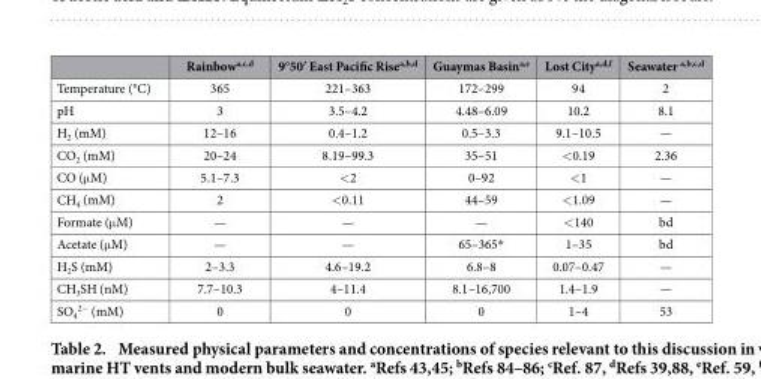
<table><thead><tr><td></td><td>Rainbow<sup>a,c,d</sup></td><td>9°50′ East Pacific Rise<sup>a,b,d</sup></td><td>Guaymas Basin<sup>a,e</sup></td><td>Lost City<sup>a,d,f</sup></td><td>Seawater <sup>a,b,c,d</sup></td></tr></thead><tbody><tr><td>Temperature (°C)</td><td>365</td><td>221–363</td><td>172–299</td><td>94</td><td>2</td></tr><tr><td>pH</td><td>3</td><td>3.5–4.2</td><td>4.48–6.09</td><td>10.2</td><td>8.1</td></tr><tr><td>H<sub>2</sub> (mM)</td><td>12–16</td><td>0.4–1.2</td><td>0.5–3.3</td><td>9.1–10.5</td><td>—</td></tr><tr><td>CO<sub>2</sub> (mM)</td><td>20–24</td><td>8.19–99.3</td><td>35–51</td><td>&lt; 0.19</td><td>2.36</td></tr><tr><td>CO (μ M)</td><td>5.1–7.3</td><td>&lt; 2</td><td>0–92</td><td>&lt; 1</td><td>—</td></tr><tr><td>CH<sub>4</sub> (mM)</td><td>2</td><td>&lt; 0.11</td><td>44–59</td><td>&lt; 1.09</td><td>—</td></tr><tr><td>Formate (μ M)</td><td>—</td><td>—</td><td>—</td><td>&lt; 140</td><td>bd</td></tr><tr><td>Acetate (μ M)</td><td>—</td><td>—</td><td>65–365*</td><td>1–35</td><td>bd</td></tr><tr><td>H<sub>2</sub>S (mM)</td><td>2–3.3</td><td>4.6–19.2</td><td>6.8–8</td><td>0.07–0.47</td><td>—</td></tr><tr><td>CH<sub>3</sub>SH (nM)</td><td>7.7–10.3</td><td>4–11.4</td><td>8.1–16,700</td><td>1.4–1.9</td><td>—</td></tr><tr><td>SO<sub>4</sub> <sup>2−</sup> (mM)</td><td>0</td><td>0</td><td>0</td><td>1–4</td><td>53</td></tr></tbody></table>